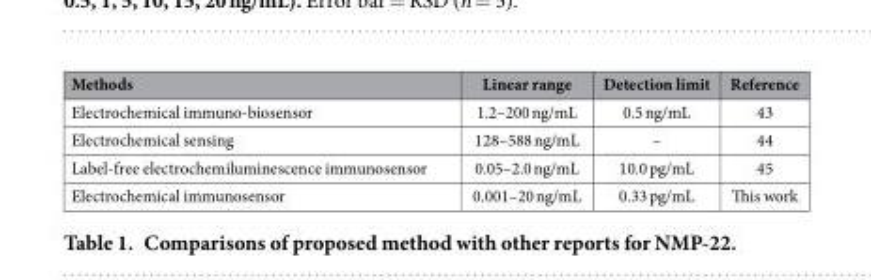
<table><thead><tr><td>Methods</td><td>Linear range</td><td>Detection limit</td><td>Reference</td></tr></thead><tbody><tr><td>Electrochemical immuno-biosensor</td><td>1.2–200 ng/mL</td><td>0.5 ng/mL</td><td>43</td></tr><tr><td>Electrochemical sensing</td><td>128–588 ng/mL</td><td>–</td><td>44</td></tr><tr><td>Label-free electrochemiluminescence immunosensor</td><td>0.05–2.0 ng/mL</td><td>10.0 pg/mL</td><td>45</td></tr><tr><td>Electrochemical immunosensor</td><td>0.001–20 ng/mL</td><td>0.33 pg/mL</td><td>This work</td></tr></tbody></table>